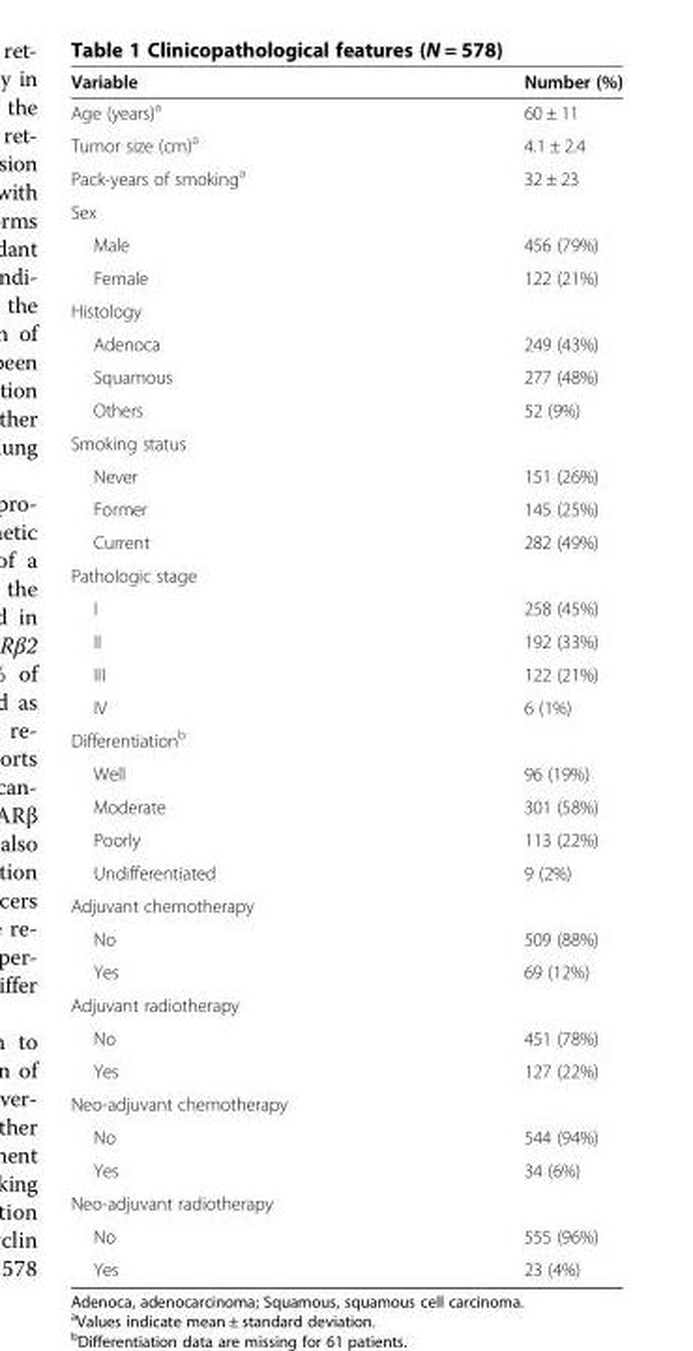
<table><thead><tr><td>Variable</td><td>Number (%)</td></tr></thead><tbody><tr><td>Age (years)<sup>a</sup></td><td>60 ± 11</td></tr><tr><td>Tumor size (cm)<sup>a</sup></td><td>4.1 ± 2.4</td></tr><tr><td>Pack-years of smoking<sup>a</sup></td><td>32 ± 23</td></tr><tr><td colspan="2">Sex</td></tr><tr><td>Male</td><td>456 (79%)</td></tr><tr><td>Female</td><td>122 (21%)</td></tr><tr><td colspan="2">Histology</td></tr><tr><td>Adenoca</td><td>249 (43%)</td></tr><tr><td>Squamous</td><td>277 (48%)</td></tr><tr><td>Others</td><td>52 (9%)</td></tr><tr><td colspan="2">Smoking status</td></tr><tr><td>Never</td><td>151 (26%)</td></tr><tr><td>Former</td><td>145 (25%)</td></tr><tr><td>Current</td><td>282 (49%)</td></tr><tr><td colspan="2">Pathologic stage</td></tr><tr><td>I</td><td>258 (45%)</td></tr><tr><td>II</td><td>192 (33%)</td></tr><tr><td>III</td><td>122 (21%)</td></tr><tr><td>IV</td><td>6 (1%)</td></tr><tr><td colspan="2">Differentiation<sup>b</sup></td></tr><tr><td>Well</td><td>96 (19%)</td></tr><tr><td>Moderate</td><td>301 (58%)</td></tr><tr><td>Poorly</td><td>113 (22%)</td></tr><tr><td>Undifferentiated</td><td>9 (2%)</td></tr><tr><td colspan="2">Adjuvant chemotherapy</td></tr><tr><td>No</td><td>509 (88%)</td></tr><tr><td>Yes</td><td>69 (12%)</td></tr><tr><td colspan="2">Adjuvant radiotherapy</td></tr><tr><td>No</td><td>451 (78%)</td></tr><tr><td>Yes</td><td>127 (22%)</td></tr><tr><td colspan="2">Neo-adjuvant chemotherapy</td></tr><tr><td>No</td><td>544 (94%)</td></tr><tr><td>Yes</td><td>34 (6%)</td></tr><tr><td colspan="2">Neo-adjuvant radiotherapy</td></tr><tr><td>No</td><td>555 (96%)</td></tr><tr><td>Yes</td><td>23 (4%)</td></tr></tbody></table>